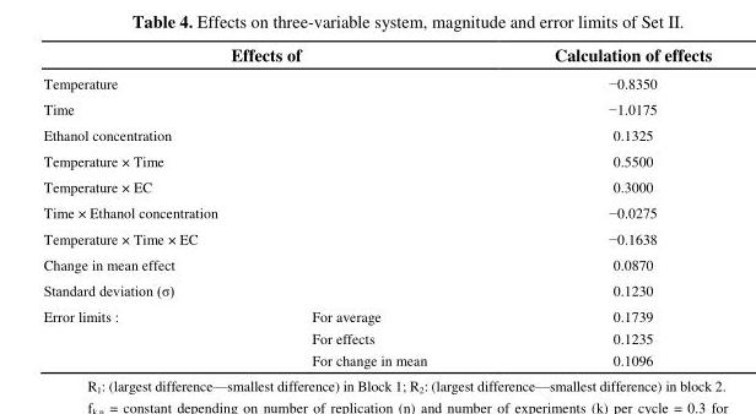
<table><thead><tr><td colspan="2">Effects of</td><td>Calculation of effects</td></tr></thead><tbody><tr><td colspan="2">Temperature</td><td>−0.8350</td></tr><tr><td colspan="2">Time</td><td>−1.0175</td></tr><tr><td colspan="2">Ethanol concentration</td><td>0.1325</td></tr><tr><td colspan="2">Temperature × Time</td><td>0.5500</td></tr><tr><td colspan="2">Temperature × EC</td><td>0.3000</td></tr><tr><td colspan="2">Time × Ethanol concentration</td><td>−0.0275</td></tr><tr><td colspan="2">Temperature × Time × EC</td><td>−0.1638</td></tr><tr><td colspan="2">Change in mean effect</td><td>0.0870</td></tr><tr><td colspan="2">Standard deviation (σ)</td><td>0.1230</td></tr><tr><td rowspan="3">Error limits :</td><td>For average</td><td>0.1739</td></tr><tr><td>For effects</td><td>0.1235</td></tr><tr><td>For change in mean</td><td>0.1096</td></tr></tbody></table>